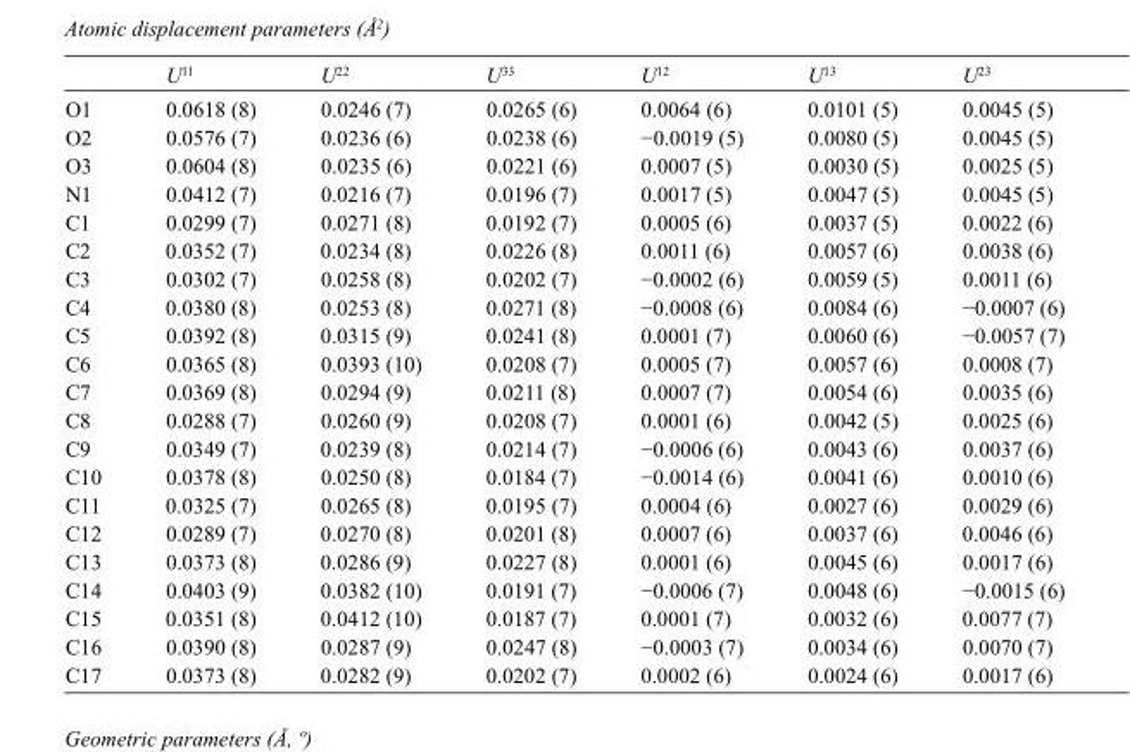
<table><thead><tr><td></td><td>U<sup>11</sup></td><td>U<sup>22</sup></td><td>U<sup>33</sup></td><td>U<sup>12</sup></td><td>U<sup>13</sup></td><td>U<sup>23</sup></td></tr></thead><tbody><tr><td>O1</td><td>0.0618 (8)</td><td>0.0246 (7)</td><td>0.0265 (6)</td><td>0.0064 (6)</td><td>0.0101 (5)</td><td>0.0045 (5)</td></tr><tr><td>O2</td><td>0.0576 (7)</td><td>0.0236 (6)</td><td>0.0238 (6)</td><td>−0.0019 (5)</td><td>0.0080 (5)</td><td>0.0045 (5)</td></tr><tr><td>O3</td><td>0.0604 (8)</td><td>0.0235 (6)</td><td>0.0221 (6)</td><td>0.0007 (5)</td><td>0.0030 (5)</td><td>0.0025 (5)</td></tr><tr><td>N1</td><td>0.0412 (7)</td><td>0.0216 (7)</td><td>0.0196 (7)</td><td>0.0017 (5)</td><td>0.0047 (5)</td><td>0.0045 (5)</td></tr><tr><td>C1</td><td>0.0299 (7)</td><td>0.0271 (8)</td><td>0.0192 (7)</td><td>0.0005 (6)</td><td>0.0037 (5)</td><td>0.0022 (6)</td></tr><tr><td>C2</td><td>0.0352 (7)</td><td>0.0234 (8)</td><td>0.0226 (8)</td><td>0.0011 (6)</td><td>0.0057 (6)</td><td>0.0038 (6)</td></tr><tr><td>C3</td><td>0.0302 (7)</td><td>0.0258 (8)</td><td>0.0202 (7)</td><td>−0.0002 (6)</td><td>0.0059 (5)</td><td>0.0011 (6)</td></tr><tr><td>C4</td><td>0.0380 (8)</td><td>0.0253 (8)</td><td>0.0271 (8)</td><td>−0.0008 (6)</td><td>0.0084 (6)</td><td>−0.0007 (6)</td></tr><tr><td>C5</td><td>0.0392 (8)</td><td>0.0315 (9)</td><td>0.0241 (8)</td><td>0.0001 (7)</td><td>0.0060 (6)</td><td>−0.0057 (7)</td></tr><tr><td>C6</td><td>0.0365 (8)</td><td>0.0393 (10)</td><td>0.0208 (7)</td><td>0.0005 (7)</td><td>0.0057 (6)</td><td>0.0008 (7)</td></tr><tr><td>C7</td><td>0.0369 (8)</td><td>0.0294 (9)</td><td>0.0211 (8)</td><td>0.0007 (7)</td><td>0.0054 (6)</td><td>0.0035 (6)</td></tr><tr><td>C8</td><td>0.0288 (7)</td><td>0.0260 (9)</td><td>0.0208 (7)</td><td>0.0001 (6)</td><td>0.0042 (5)</td><td>0.0025 (6)</td></tr><tr><td>C9</td><td>0.0349 (7)</td><td>0.0239 (8)</td><td>0.0214 (7)</td><td>−0.0006 (6)</td><td>0.0043 (6)</td><td>0.0037 (6)</td></tr><tr><td>C10</td><td>0.0378 (8)</td><td>0.0250 (8)</td><td>0.0184 (7)</td><td>−0.0014 (6)</td><td>0.0041 (6)</td><td>0.0010 (6)</td></tr><tr><td>C11</td><td>0.0325 (7)</td><td>0.0265 (8)</td><td>0.0195 (7)</td><td>0.0004 (6)</td><td>0.0027 (6)</td><td>0.0029 (6)</td></tr><tr><td>C12</td><td>0.0289 (7)</td><td>0.0270 (8)</td><td>0.0201 (8)</td><td>0.0007 (6)</td><td>0.0037 (6)</td><td>0.0046 (6)</td></tr><tr><td>C13</td><td>0.0373 (8)</td><td>0.0286 (9)</td><td>0.0227 (8)</td><td>0.0001 (6)</td><td>0.0045 (6)</td><td>0.0017 (6)</td></tr><tr><td>C14</td><td>0.0403 (9)</td><td>0.0382 (10)</td><td>0.0191 (7)</td><td>−0.0006 (7)</td><td>0.0048 (6)</td><td>−0.0015 (6)</td></tr><tr><td>C15</td><td>0.0351 (8)</td><td>0.0412 (10)</td><td>0.0187 (7)</td><td>0.0001 (7)</td><td>0.0032 (6)</td><td>0.0077 (7)</td></tr><tr><td>C16</td><td>0.0390 (8)</td><td>0.0287 (9)</td><td>0.0247 (8)</td><td>−0.0003 (7)</td><td>0.0034 (6)</td><td>0.0070 (7)</td></tr><tr><td>C17</td><td>0.0373 (8)</td><td>0.0282 (9)</td><td>0.0202 (7)</td><td>0.0002 (6)</td><td>0.0024 (6)</td><td>0.0017 (6)</td></tr></tbody></table>